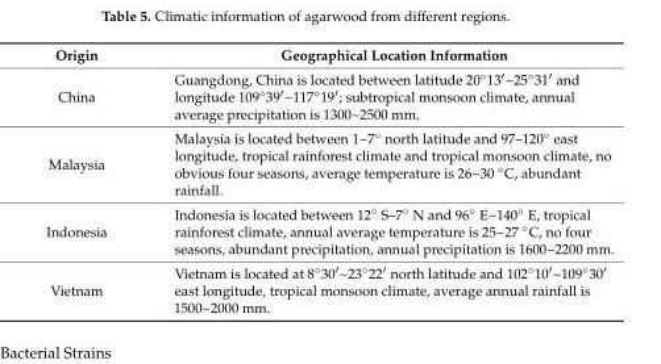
<table><thead><tr><td>Origin</td><td>Geographical Location Information</td></tr></thead><tbody><tr><td>China</td><td>Guangdong, China is located between latitude 20◦13′~25◦31′ and longitude 109◦39′~117◦19′; subtropical monsoon climate, annual average precipitation is 1300~2500 mm.</td></tr><tr><td>Malaysia</td><td>Malaysia is located between 1~7◦ north latitude and 97–120◦ east longitude, tropical rainforest climate and tropical monsoon climate, no obvious four seasons, average temperature is 26~30 ◦C, abundant rainfall.</td></tr><tr><td>Indonesia</td><td>Indonesia is located between 12◦ S–7◦ N and 96◦ E~140◦ E, tropical rainforest climate, annual average temperature is 25~27 ◦C, no four seasons, abundant precipitation, annual precipitation is 1600~2200 mm.</td></tr><tr><td>Vietnam</td><td>Vietnam is located at 8◦30′~23◦22′ north latitude and 102◦10′~109◦30′ east longitude, tropical monsoon climate, average annual rainfall is 1500~2000 mm.</td></tr></tbody></table>